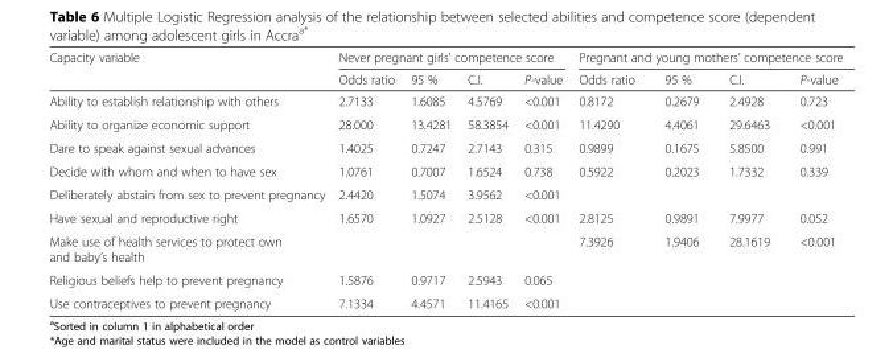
<table><thead><tr><td rowspan="2">Capacity variable</td><td colspan="4">Never pregnant girls’ competence score</td><td colspan="4">Pregnant and young mothers’ competence score</td></tr><tr><td>Odds ratio</td><td>95 %</td><td>C.I.</td><td>P-value</td><td>Odds ratio</td><td>95 %</td><td>C.I.</td><td>P-value</td></tr></thead><tbody><tr><td>Ability to establish relationship with others</td><td>2.7133</td><td>1.6085</td><td>4.5769</td><td>&lt;0.001</td><td>0.8172</td><td>0.2679</td><td>2.4928</td><td>0.723</td></tr><tr><td>Ability to organize economic support</td><td>28.000</td><td>13.4281</td><td>58.3854</td><td>&lt;0.001</td><td>11.4290</td><td>4.4061</td><td>29.6463</td><td>&lt;0.001</td></tr><tr><td>Dare to speak against sexual advances</td><td>1.4025</td><td>0.7247</td><td>2.7143</td><td>0.315</td><td>0.9899</td><td>0.1675</td><td>5.8500</td><td>0.991</td></tr><tr><td>Decide with whom and when to have sex</td><td>1.0761</td><td>0.7007</td><td>1.6524</td><td>0.738</td><td>0.5922</td><td>0.2023</td><td>1.7332</td><td>0.339</td></tr><tr><td>Deliberately abstain from sex to prevent pregnancy</td><td>2.4420</td><td>1.5074</td><td>3.9562</td><td>&lt;0.001</td><td></td><td></td><td></td><td></td></tr><tr><td>Have sexual and reproductive right</td><td>1.6570</td><td>1.0927</td><td>2.5128</td><td>&lt;0.001</td><td>2.8125</td><td>0.9891</td><td>7.9977</td><td>0.052</td></tr><tr><td>Make use of health services to protect own and baby’s health</td><td></td><td></td><td></td><td></td><td>7.3926</td><td>1.9406</td><td>28.1619</td><td>&lt;0.001</td></tr><tr><td>Religious beliefs help to prevent pregnancy</td><td>1.5876</td><td>0.9717</td><td>2.5943</td><td>0.065</td><td></td><td></td><td></td><td></td></tr><tr><td>Use contraceptives to prevent pregnancy</td><td>7.1334</td><td>4.4571</td><td>11.4165</td><td>&lt;0.001</td><td></td><td></td><td></td><td></td></tr></tbody></table>